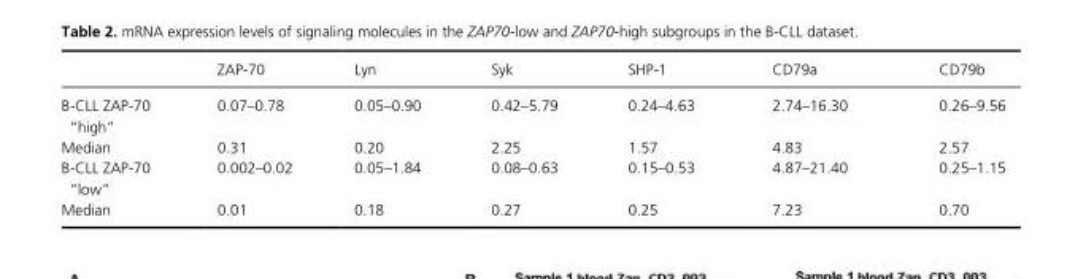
<table><thead><tr><td></td><td>ZAP- 70</td><td>Lyn</td><td>Syk</td><td>SHP- 1</td><td>CD79a</td><td>CD79b</td></tr></thead><tbody><tr><td>B- CLL ZAP- 70 “high”</td><td>0.07–0.78</td><td>0.05–0.90</td><td>0.42–5.79</td><td>0.24–4.63</td><td>2.74–16.30</td><td>0.26–9.56</td></tr><tr><td>Median</td><td>0.31</td><td>0.20</td><td>2.25</td><td>1.57</td><td>4.83</td><td>2.57</td></tr><tr><td>B- CLL ZAP- 70 “low”</td><td>0.002–0.02</td><td>0.05–1.84</td><td>0.08–0.63</td><td>0.15–0.53</td><td>4.87–21.40</td><td>0.25–1.15</td></tr><tr><td>Median</td><td>0.01</td><td>0.18</td><td>0.27</td><td>0.25</td><td>7.23</td><td>0.70</td></tr></tbody></table>